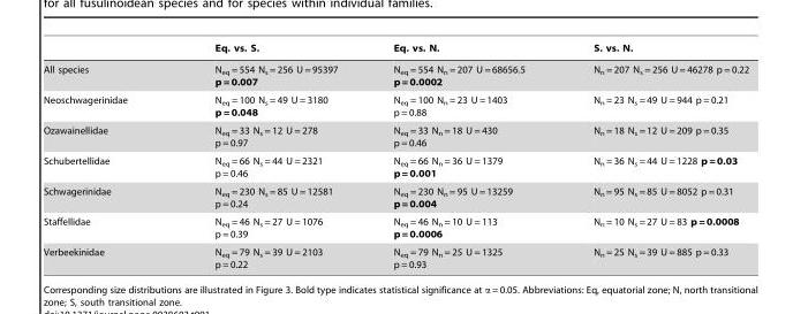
<table><thead><tr><td></td><td>Eq. vs. S.</td><td>Eq. vs. N.</td><td>S. vs. N.</td></tr></thead><tbody><tr><td>All species</td><td>N<sub>eq</sub> = 554 N<sub>s</sub> = 256 U = 95397 p = 0.007</td><td>N<sub>eq</sub> = 554 N<sub>n</sub> = 207 U = 68656.5 p = 0.0002</td><td>N<sub>n</sub> = 207 N<sub>s</sub> = 256 U = 46278 p = 0.22</td></tr><tr><td>Neoschwagerinidae</td><td>N<sub>eq</sub> = 100 N<sub>s</sub> = 49 U = 3180 p = 0.048</td><td>N<sub>eq</sub> = 100 N<sub>n</sub> = 23 U = 1403 p = 0.88</td><td>N<sub>n</sub> = 23 N<sub>s</sub> = 49 U = 944 p = 0.21</td></tr><tr><td>Ozawainellidae</td><td>N<sub>eq</sub> = 33 N<sub>s</sub> = 12 U = 278 p = 0.97</td><td>N<sub>eq</sub> = 33 N<sub>n</sub> = 18 U = 430 p = 0.46</td><td>N<sub>n</sub> = 18 N<sub>s</sub> = 12 U = 209 p = 0.35</td></tr><tr><td>Schubertellidae</td><td>N<sub>eq</sub> = 66 N<sub>s</sub> = 44 U = 2321 p = 0.46</td><td>N<sub>eq</sub> = 66 N<sub>n</sub> = 36 U = 1379 p = 0.001</td><td>N<sub>n</sub> = 36 N<sub>s</sub> = 44 U = 1228 p = 0.03</td></tr><tr><td>Schwagerinidae</td><td>N<sub>eq</sub> = 230 N<sub>s</sub> = 85 U = 12581 p = 0.24</td><td>N<sub>eq</sub> = 230 N<sub>n</sub> = 95 U = 13259 p = 0.004</td><td>N<sub>n</sub> = 95 N<sub>s</sub> = 85 U = 8052 p = 0.31</td></tr><tr><td>Staffellidae</td><td>N<sub>eq</sub> = 46 N<sub>s</sub> = 27 U = 1076 p = 0.39</td><td>N<sub>eq</sub> = 46 N<sub>n</sub> = 10 U = 113 p = 0.0006</td><td>N<sub>n</sub> = 10 N<sub>s</sub> = 27 U = 83 p = 0.0008</td></tr><tr><td>Verbeekinidae</td><td>N<sub>eq</sub> = 79 N<sub>s</sub> = 39 U = 2103 p = 0.22</td><td>N<sub>eq</sub> = 79 N<sub>n</sub> = 25 U = 1325 p = 0.93</td><td>N<sub>n</sub> = 25 N<sub>s</sub> = 39 U = 885 p = 0.33</td></tr></tbody></table>